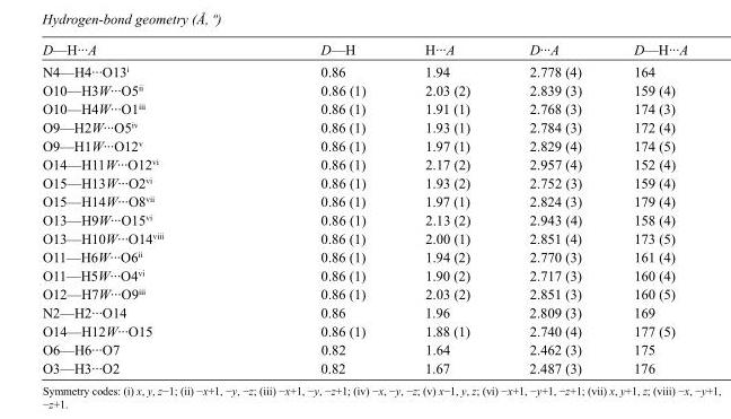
<table><tbody><tr><td>D—H···A</td><td>D—H</td><td>H···A</td><td>D···A</td><td>D—H···A</td></tr><tr><td>N4—H4···O13<sup>i</sup></td><td>0.86</td><td>1.94</td><td>2.778 (4)</td><td>164</td></tr><tr><td>O10—H3W···O5<sup>ii</sup></td><td>0.86 (1)</td><td>2.03 (2)</td><td>2.839 (3)</td><td>159 (4)</td></tr><tr><td>O10—H4W···O1<sup>iii</sup></td><td>0.86 (1)</td><td>1.91 (1)</td><td>2.768 (3)</td><td>174 (3)</td></tr><tr><td>O9—H2W···O5<sup>iv</sup></td><td>0.86 (1)</td><td>1.93 (1)</td><td>2.784 (3)</td><td>172 (4)</td></tr><tr><td>O9—H1W···O12<sup>v</sup></td><td>0.86 (1)</td><td>1.97 (1)</td><td>2.829 (4)</td><td>174 (5)</td></tr><tr><td>O14—H11W···O12<sup>vi</sup></td><td>0.86 (1)</td><td>2.17 (2)</td><td>2.957 (4)</td><td>152 (4)</td></tr><tr><td>O15—H13W···O2<sup>vi</sup></td><td>0.86 (1)</td><td>1.93 (2)</td><td>2.752 (3)</td><td>159 (4)</td></tr><tr><td>O15—H14W···O8<sup>vii</sup></td><td>0.86 (1)</td><td>1.97 (1)</td><td>2.824 (3)</td><td>179 (4)</td></tr><tr><td>O13—H9W···O15<sup>vi</sup></td><td>0.86 (1)</td><td>2.13 (2)</td><td>2.943 (4)</td><td>158 (4)</td></tr><tr><td>O13—H10W···O14<sup>viii</sup></td><td>0.86 (1)</td><td>2.00 (1)</td><td>2.851 (4)</td><td>173 (5)</td></tr><tr><td>O11—H6W···O6<sup>ii</sup></td><td>0.86 (1)</td><td>1.94 (2)</td><td>2.770 (3)</td><td>161 (4)</td></tr><tr><td>O11—H5W···O4<sup>vi</sup></td><td>0.86 (1)</td><td>1.90 (2)</td><td>2.717 (3)</td><td>160 (4)</td></tr><tr><td>O12—H7W···O9<sup>iii</sup></td><td>0.86 (1)</td><td>2.03 (2)</td><td>2.851 (3)</td><td>160 (5)</td></tr><tr><td>N2—H2···O14</td><td>0.86</td><td>1.96</td><td>2.809 (3)</td><td>169</td></tr><tr><td>O14—H12W···O15</td><td>0.86 (1)</td><td>1.88 (1)</td><td>2.740 (4)</td><td>177 (5)</td></tr><tr><td>O6—H6···O7</td><td>0.82</td><td>1.64</td><td>2.462 (3)</td><td>175</td></tr><tr><td>O3—H3···O2</td><td>0.82</td><td>1.67</td><td>2.487 (3)</td><td>176</td></tr></tbody></table>